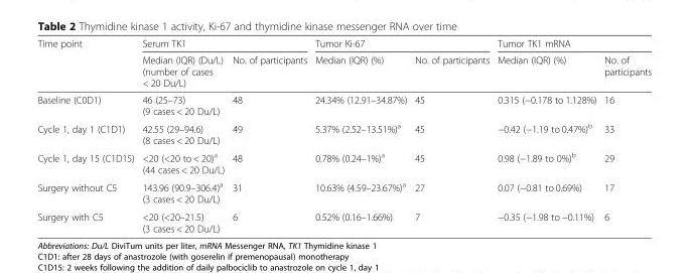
<table><thead><tr><td rowspan="2">Time point</td><td colspan="2">Serum TK1</td><td colspan="2">Tumor Ki-67</td><td colspan="2">Tumor TK1 mRNA</td></tr><tr><td>Median (IQR) (Du/L) (number of cases &lt; 20 Du/L)</td><td>No. of participants</td><td>Median (IQR) (%)</td><td>No. of participants</td><td>Median (IQR) (%)</td><td>No. of participants</td></tr></thead><tbody><tr><td>Baseline (C0D1)</td><td>46 (25–73) (9 cases &lt; 20 Du/L)</td><td>48</td><td>24.34% (12.91–34.87%)</td><td>45</td><td>0.315 (−0.178 to 1.128%)</td><td>16</td></tr><tr><td>Cycle 1, day 1 (C1D1)</td><td>42.55 (29–94.6) (8 cases &lt; 20 Du/L)</td><td>49</td><td>5.37% (2.52–13.51%)<sup>a</sup></td><td>45</td><td>−0.42 (−1.19 to 0.47%)<sup>b</sup></td><td>33</td></tr><tr><td>Cycle 1, day 15 (C1D15)</td><td>&lt;20 (&lt;20 to &lt; 20)<sup>a</sup> (44 cases &lt; 20 Du/L)</td><td>48</td><td>0.78% (0.24–1%)<sup>a</sup></td><td>45</td><td>0.98 (−1.89 to 0%)<sup>b</sup></td><td>29</td></tr><tr><td>Surgery without C5</td><td>143.96 (90.9–306.4)<sup>a</sup> (3 cases &lt; 20 Du/L)</td><td>31</td><td>10.63% (4.59–23.67%)<sup>a</sup></td><td>27</td><td>0.07 (−0.81 to 0.69%)</td><td>17</td></tr><tr><td>Surgery with C5</td><td>&lt;20 (&lt;20–21.5) (3 cases &lt; 20 Du/L)</td><td>6</td><td>0.52% (0.16–1.66%)</td><td>7</td><td>−0.35 (−1.98 to −0.11%)</td><td>6</td></tr></tbody></table>